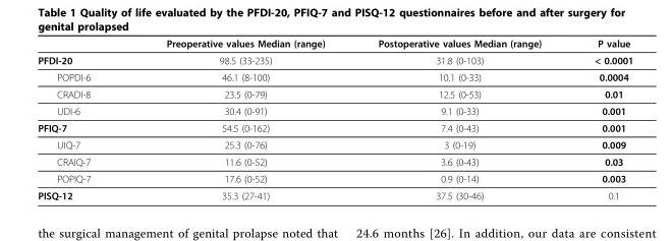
<table><thead><tr><td></td><td>Preoperative values Median (range)</td><td>Postoperative values Median (range)</td><td>P value</td></tr></thead><tbody><tr><td>PFDI-20</td><td>98.5 (33-235)</td><td>31.8 (0-103)</td><td>&lt; 0.0001</td></tr><tr><td>POPDI-6</td><td>46.1 (8-100)</td><td>10.1 (0-33)</td><td>0.0004</td></tr><tr><td>CRADI-8</td><td>23.5 (0-79)</td><td>12.5 (0-53)</td><td>0.01</td></tr><tr><td>UDI-6</td><td>30.4 (0-91)</td><td>9.1 (0-33)</td><td>0.001</td></tr><tr><td>PFIQ-7</td><td>54.5 (0-162)</td><td>7.4 (0-43)</td><td>0.001</td></tr><tr><td>UIQ-7</td><td>25.3 (0-76)</td><td>3 (0-19)</td><td>0.009</td></tr><tr><td>CRAIQ-7</td><td>11.6 (0-52)</td><td>3.6 (0-43)</td><td>0.03</td></tr><tr><td>POPIQ-7</td><td>17.6 (0-52)</td><td>0.9 (0-14)</td><td>0.003</td></tr><tr><td>PISQ-12</td><td>35.3 (27-41)</td><td>37.5 (30-46)</td><td>0.1</td></tr></tbody></table>